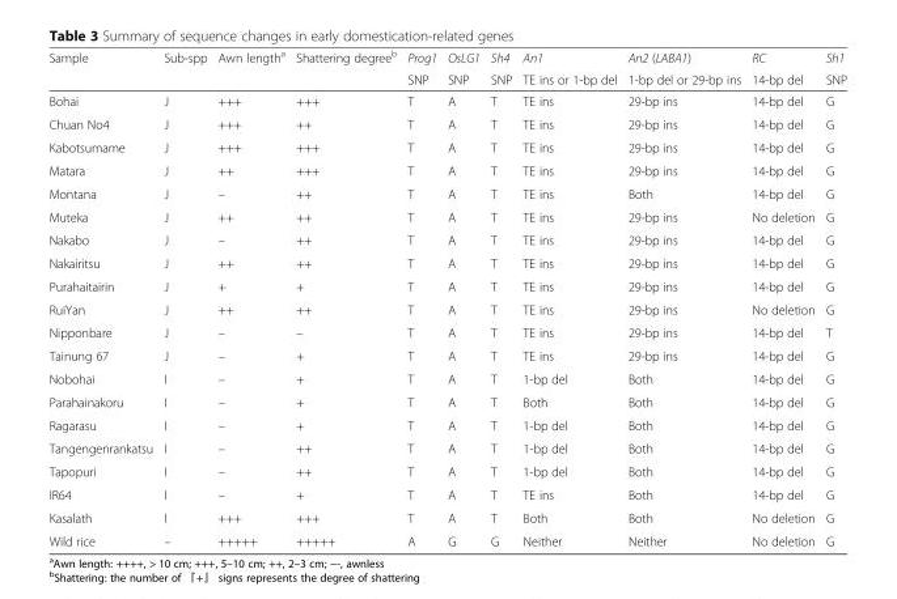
<table><thead><tr><td rowspan="2">Sample</td><td rowspan="2">Sub-spp</td><td rowspan="2">Awn length<sup>a</sup></td><td rowspan="2">Shattering degree<sup>b</sup></td><td rowspan="2">Prog1 SNP</td><td rowspan="2">OsLG1 SNP</td><td rowspan="2">Sh4 SNP</td><td rowspan="2">An1 TE ins or 1-bp del</td><td rowspan="2">An2 (LABA1) 1-bp del or 29-bp ins</td><td rowspan="2">RC 14-bp del</td><td rowspan="2">Sh1 SNP</td></tr><tr></tr></thead><tbody><tr><td>Bohai</td><td>J</td><td>+++</td><td>+++</td><td>T</td><td>A</td><td>T</td><td>TE ins</td><td>29-bp ins</td><td>14-bp del</td><td>G</td></tr><tr><td>Chuan No4</td><td>J</td><td>+++</td><td>++</td><td>T</td><td>A</td><td>T</td><td>TE ins</td><td>29-bp ins</td><td>14-bp del</td><td>G</td></tr><tr><td>Kabotsumame</td><td>J</td><td>+++</td><td>+++</td><td>T</td><td>A</td><td>T</td><td>TE ins</td><td>29-bp ins</td><td>14-bp del</td><td>G</td></tr><tr><td>Matara</td><td>J</td><td>++</td><td>+++</td><td>T</td><td>A</td><td>T</td><td>TE ins</td><td>29-bp ins</td><td>14-bp del</td><td>G</td></tr><tr><td>Montana</td><td>J</td><td>–</td><td>++</td><td>T</td><td>A</td><td>T</td><td>TE ins</td><td>Both</td><td>14-bp del</td><td>G</td></tr><tr><td>Muteka</td><td>J</td><td>++</td><td>++</td><td>T</td><td>A</td><td>T</td><td>TE ins</td><td>29-bp ins</td><td>No deletion</td><td>G</td></tr><tr><td>Nakabo</td><td>J</td><td>–</td><td>++</td><td>T</td><td>A</td><td>T</td><td>TE ins</td><td>29-bp ins</td><td>14-bp del</td><td>G</td></tr><tr><td>Nakairitsu</td><td>J</td><td>++</td><td>++</td><td>T</td><td>A</td><td>T</td><td>TE ins</td><td>29-bp ins</td><td>14-bp del</td><td>G</td></tr><tr><td>Purahaitairin</td><td>J</td><td>+</td><td>+</td><td>T</td><td>A</td><td>T</td><td>TE ins</td><td>29-bp ins</td><td>14-bp del</td><td>G</td></tr><tr><td>RuiYan</td><td>J</td><td>++</td><td>++</td><td>T</td><td>A</td><td>T</td><td>TE ins</td><td>29-bp ins</td><td>No deletion</td><td>G</td></tr><tr><td>Nipponbare</td><td>J</td><td>–</td><td>–</td><td>T</td><td>A</td><td>T</td><td>TE ins</td><td>29-bp ins</td><td>14-bp del</td><td>T</td></tr><tr><td>Tainung 67</td><td>J</td><td>–</td><td>+</td><td>T</td><td>A</td><td>T</td><td>TE ins</td><td>29-bp ins</td><td>14-bp del</td><td>G</td></tr><tr><td>Nobohai</td><td>I</td><td>–</td><td>+</td><td>T</td><td>A</td><td>T</td><td>1-bp del</td><td>Both</td><td>14-bp del</td><td>G</td></tr><tr><td>Parahainakoru</td><td>I</td><td>–</td><td>+</td><td>T</td><td>A</td><td>T</td><td>Both</td><td>Both</td><td>14-bp del</td><td>G</td></tr><tr><td>Ragarasu</td><td>I</td><td>–</td><td>+</td><td>T</td><td>A</td><td>T</td><td>1-bp del</td><td>Both</td><td>14-bp del</td><td>G</td></tr><tr><td>Tangengenrankatsu</td><td>I</td><td>–</td><td>++</td><td>T</td><td>A</td><td>T</td><td>1-bp del</td><td>Both</td><td>14-bp del</td><td>G</td></tr><tr><td>Tapopuri</td><td>I</td><td>–</td><td>++</td><td>T</td><td>A</td><td>T</td><td>1-bp del</td><td>Both</td><td>14-bp del</td><td>G</td></tr><tr><td>IR64</td><td>I</td><td>–</td><td>+</td><td>T</td><td>A</td><td>T</td><td>TE ins</td><td>Both</td><td>14-bp del</td><td>G</td></tr><tr><td>Kasalath</td><td>I</td><td>+++</td><td>+++</td><td>T</td><td>A</td><td>T</td><td>Both</td><td>Both</td><td>No deletion</td><td>G</td></tr><tr><td>Wild rice</td><td>–</td><td>+++++</td><td>+++++</td><td>A</td><td>G</td><td>G</td><td>Neither</td><td>Neither</td><td>No deletion</td><td>G</td></tr></tbody></table>